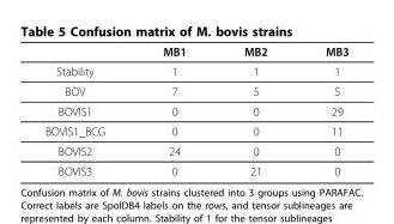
<table><thead><tr><td></td><td>MB1</td><td>MB2</td><td>MB3</td></tr></thead><tbody><tr><td>Stability</td><td>1</td><td>1</td><td>1</td></tr><tr><td>BOV</td><td>7</td><td>5</td><td>5</td></tr><tr><td>BOVIS1</td><td>0</td><td>0</td><td>29</td></tr><tr><td>BOVIS1_BCG</td><td>0</td><td>0</td><td>11</td></tr><tr><td>BOVIS2</td><td>24</td><td>0</td><td>0</td></tr><tr><td>BOVIS3</td><td>0</td><td>21</td><td>0</td></tr></tbody></table>